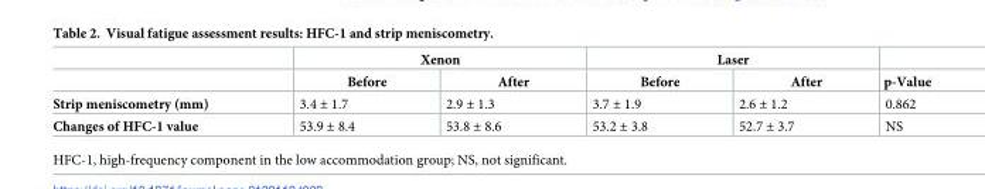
<table><thead><tr><td rowspan="2"></td><td colspan="2">Xenon</td><td colspan="2">Laser</td><td rowspan="2">p-Value</td></tr><tr><td>Before</td><td>After</td><td>Before</td><td>After</td></tr></thead><tbody><tr><td>Strip meniscometry (mm)</td><td>3.4 ± 1.7</td><td>2.9 ± 1.3</td><td>3.7 ± 1.9</td><td>2.6 ± 1.2</td><td>0.862</td></tr><tr><td>Changes of HFC-1 value</td><td>53.9 ± 8.4</td><td>53.8 ± 8.6</td><td>53.2 ± 3.8</td><td>52.7 ± 3.7</td><td>NS</td></tr></tbody></table>